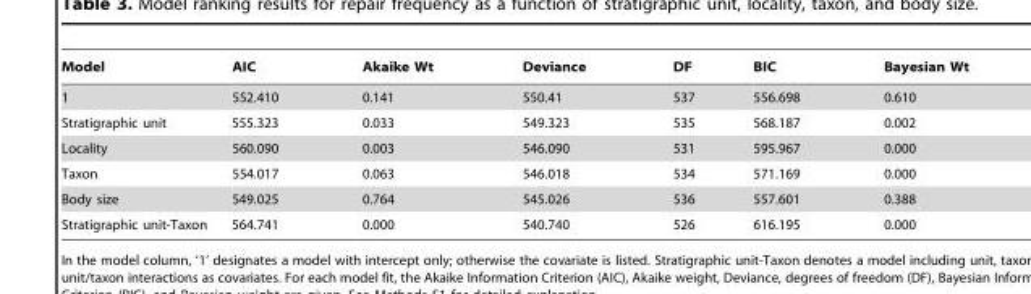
<table><thead><tr><td>Model</td><td>AIC</td><td>Akaike Wt</td><td>Deviance</td><td>DF</td><td>BIC</td><td>Bayesian Wt</td></tr></thead><tbody><tr><td>1</td><td>552.410</td><td>0.141</td><td>550.41</td><td>537</td><td>556.698</td><td>0.610</td></tr><tr><td>Stratigraphic unit</td><td>555.323</td><td>0.033</td><td>549.323</td><td>535</td><td>568.187</td><td>0.002</td></tr><tr><td>Locality</td><td>560.090</td><td>0.003</td><td>546.090</td><td>531</td><td>595.967</td><td>0.000</td></tr><tr><td>Taxon</td><td>554.017</td><td>0.063</td><td>546.018</td><td>534</td><td>571.169</td><td>0.000</td></tr><tr><td>Body size</td><td>549.025</td><td>0.764</td><td>545.026</td><td>536</td><td>557.601</td><td>0.388</td></tr><tr><td>Stratigraphic unit-Taxon</td><td>564.741</td><td>0.000</td><td>540.740</td><td>526</td><td>616.195</td><td>0.000</td></tr></tbody></table>